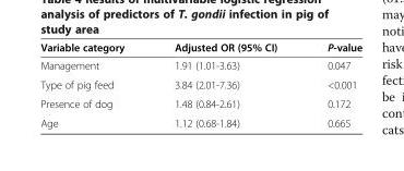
<table><thead><tr><td>Variable category</td><td>Adjusted OR (95% CI)</td><td>P-value</td></tr></thead><tbody><tr><td>Management</td><td>1.91 (1.01-3.63)</td><td>0.047</td></tr><tr><td>Type of pig feed</td><td>3.84 (2.01-7.36)</td><td>&lt;0.001</td></tr><tr><td>Presence of dog</td><td>1.48 (0.84-2.61)</td><td>0.172</td></tr><tr><td>Age</td><td>1.12 (0.68-1.84)</td><td>0.665</td></tr></tbody></table>